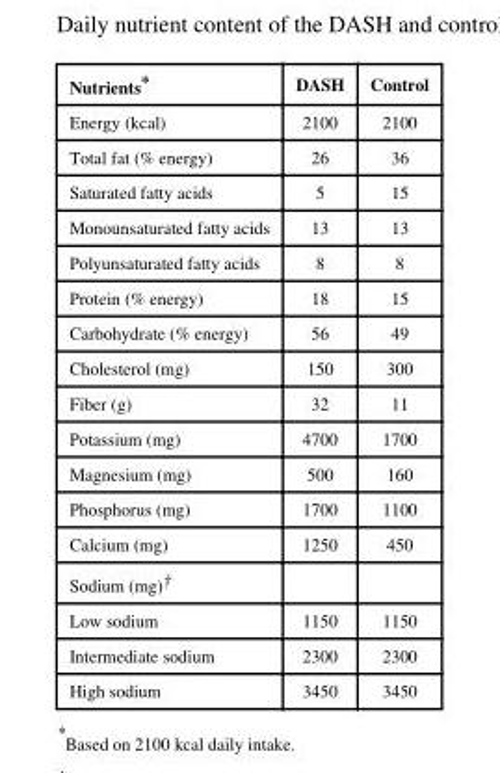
<table><thead><tr><td>Nutrients*</td><td>DASH</td><td>Control</td></tr></thead><tbody><tr><td>Energy (kcal)</td><td>2100</td><td>2100</td></tr><tr><td>Total fat (% energy)</td><td>26</td><td>36</td></tr><tr><td>Saturated fatty acids</td><td>5</td><td>15</td></tr><tr><td>Monounsaturated fatty acids</td><td>13</td><td>13</td></tr><tr><td>Polyunsaturated fatty acids</td><td>8</td><td>8</td></tr><tr><td>Protein (% energy)</td><td>18</td><td>15</td></tr><tr><td>Carbohydrate (% energy)</td><td>56</td><td>49</td></tr><tr><td>Cholesterol (mg)</td><td>150</td><td>300</td></tr><tr><td>Fiber (g)</td><td>32</td><td>11</td></tr><tr><td>Potassium (mg)</td><td>4700</td><td>1700</td></tr><tr><td>Magnesium (mg)</td><td>500</td><td>160</td></tr><tr><td>Phosphorus (mg)</td><td>1700</td><td>1100</td></tr><tr><td>Calcium (mg)</td><td>1250</td><td>450</td></tr><tr><td colspan="3">Sodium (mg)†</td></tr><tr><td>Low sodium</td><td>1150</td><td>1150</td></tr><tr><td>Intermediate sodium</td><td>2300</td><td>2300</td></tr><tr><td>High sodium</td><td>3450</td><td>3450</td></tr></tbody></table>